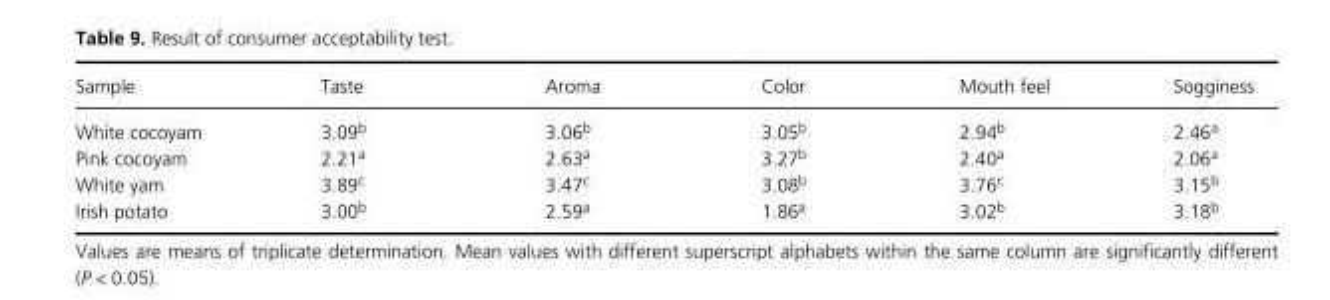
<table><thead><tr><td>Sample</td><td>Taste</td><td>Aroma</td><td>Color</td><td>Mouth feel</td><td>Sogginess</td></tr></thead><tbody><tr><td>White cocoyam</td><td>3.09<sup>b</sup></td><td>3.06<sup>b</sup></td><td>3.05<sup>b</sup></td><td>2.94<sup>b</sup></td><td>2.46<sup>a</sup></td></tr><tr><td>Pink cocoyam</td><td>2.21<sup>a</sup></td><td>2.63<sup>a</sup></td><td>3.27<sup>b</sup></td><td>2.40<sup>a</sup></td><td>2.06<sup>a</sup></td></tr><tr><td>White yam</td><td>3.89<sup>c</sup></td><td>3.47<sup>c</sup></td><td>3.08<sup>b</sup></td><td>3.76<sup>c</sup></td><td>3.15<sup>b</sup></td></tr><tr><td>Irish potato</td><td>3.00<sup>b</sup></td><td>2.59<sup>a</sup></td><td>1.86<sup>a</sup></td><td>3.02<sup>b</sup></td><td>3.18<sup>b</sup></td></tr></tbody></table>